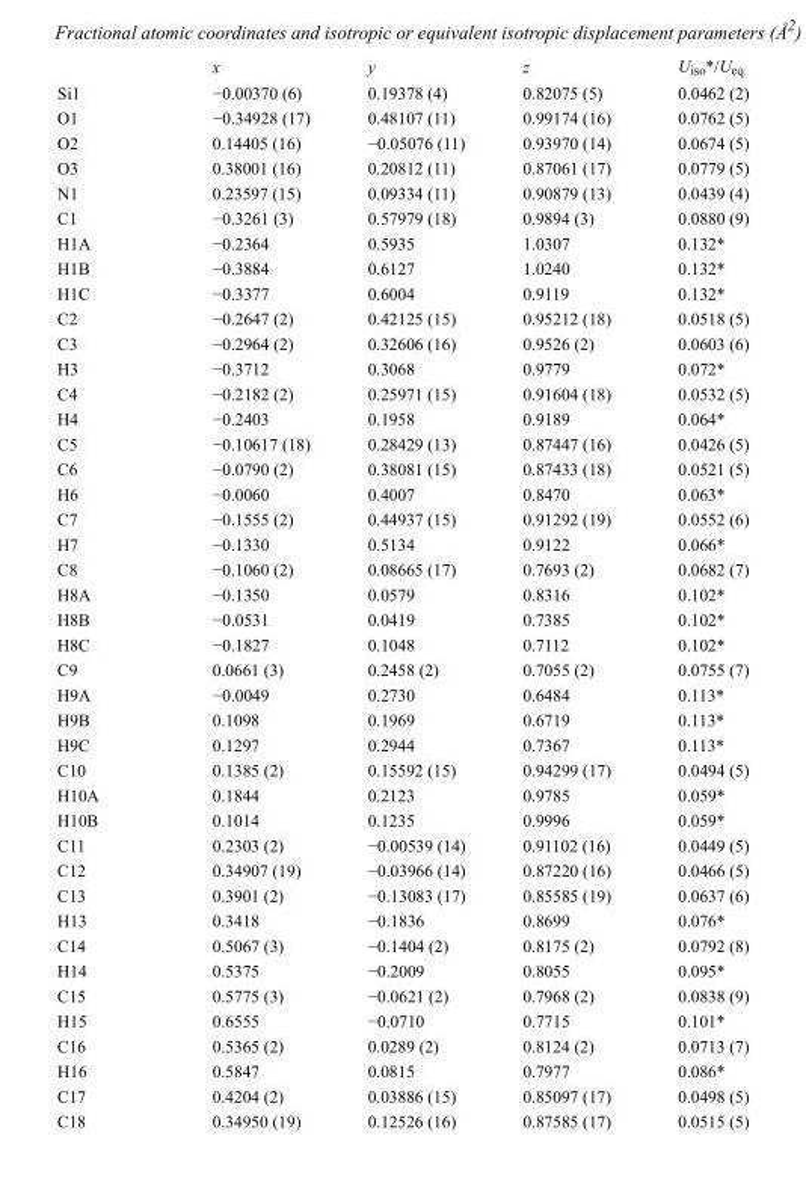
<table><thead><tr><td></td><td>x</td><td>y</td><td>z</td><td>U<sub>iso</sub>*/U<sub>eq</sub></td></tr></thead><tbody><tr><td>Si1</td><td>−0.00370 (6)</td><td>0.19378 (4)</td><td>0.82075 (5)</td><td>0.0462 (2)</td></tr><tr><td>O1</td><td>−0.34928 (17)</td><td>0.48107 (11)</td><td>0.99174 (16)</td><td>0.0762 (5)</td></tr><tr><td>O2</td><td>0.14405 (16)</td><td>−0.05076 (11)</td><td>0.93970 (14)</td><td>0.0674 (5)</td></tr><tr><td>O3</td><td>0.38001 (16)</td><td>0.20812 (11)</td><td>0.87061 (17)</td><td>0.0779 (5)</td></tr><tr><td>N1</td><td>0.23597 (15)</td><td>0.09334 (11)</td><td>0.90879 (13)</td><td>0.0439 (4)</td></tr><tr><td>C1</td><td>−0.3261 (3)</td><td>0.57979 (18)</td><td>0.9894 (3)</td><td>0.0880 (9)</td></tr><tr><td>H1A</td><td>−0.2364</td><td>0.5935</td><td>1.0307</td><td>0.132*</td></tr><tr><td>H1B</td><td>−0.3884</td><td>0.6127</td><td>1.0240</td><td>0.132*</td></tr><tr><td>H1C</td><td>−0.3377</td><td>0.6004</td><td>0.9119</td><td>0.132*</td></tr><tr><td>C2</td><td>−0.2647 (2)</td><td>0.42125 (15)</td><td>0.95212 (18)</td><td>0.0518 (5)</td></tr><tr><td>C3</td><td>−0.2964 (2)</td><td>0.32606 (16)</td><td>0.9526 (2)</td><td>0.0603 (6)</td></tr><tr><td>H3</td><td>−0.3712</td><td>0.3068</td><td>0.9779</td><td>0.072*</td></tr><tr><td>C4</td><td>−0.2182 (2)</td><td>0.25971 (15)</td><td>0.91604 (18)</td><td>0.0532 (5)</td></tr><tr><td>H4</td><td>−0.2403</td><td>0.1958</td><td>0.9189</td><td>0.064*</td></tr><tr><td>C5</td><td>−0.10617 (18)</td><td>0.28429 (13)</td><td>0.87447 (16)</td><td>0.0426 (5)</td></tr><tr><td>C6</td><td>−0.0790 (2)</td><td>0.38081 (15)</td><td>0.87433 (18)</td><td>0.0521 (5)</td></tr><tr><td>H6</td><td>−0.0060</td><td>0.4007</td><td>0.8470</td><td>0.063*</td></tr><tr><td>C7</td><td>−0.1555 (2)</td><td>0.44937 (15)</td><td>0.91292 (19)</td><td>0.0552 (6)</td></tr><tr><td>H7</td><td>−0.1330</td><td>0.5134</td><td>0.9122</td><td>0.066*</td></tr><tr><td>C8</td><td>−0.1060 (2)</td><td>0.08665 (17)</td><td>0.7693 (2)</td><td>0.0682 (7)</td></tr><tr><td>H8A</td><td>−0.1350</td><td>0.0579</td><td>0.8316</td><td>0.102*</td></tr><tr><td>H8B</td><td>−0.0531</td><td>0.0419</td><td>0.7385</td><td>0.102*</td></tr><tr><td>H8C</td><td>−0.1827</td><td>0.1048</td><td>0.7112</td><td>0.102*</td></tr><tr><td>C9</td><td>0.0661 (3)</td><td>0.2458 (2)</td><td>0.7055 (2)</td><td>0.0755 (7)</td></tr><tr><td>H9A</td><td>−0.0049</td><td>0.2730</td><td>0.6484</td><td>0.113*</td></tr><tr><td>H9B</td><td>0.1098</td><td>0.1969</td><td>0.6719</td><td>0.113*</td></tr><tr><td>H9C</td><td>0.1297</td><td>0.2944</td><td>0.7367</td><td>0.113*</td></tr><tr><td>C10</td><td>0.1385 (2)</td><td>0.15592 (15)</td><td>0.94299 (17)</td><td>0.0494 (5)</td></tr><tr><td>H10A</td><td>0.1844</td><td>0.2123</td><td>0.9785</td><td>0.059*</td></tr><tr><td>H10B</td><td>0.1014</td><td>0.1235</td><td>0.9996</td><td>0.059*</td></tr><tr><td>C11</td><td>0.2303 (2)</td><td>−0.00539 (14)</td><td>0.91102 (16)</td><td>0.0449 (5)</td></tr><tr><td>C12</td><td>0.34907 (19)</td><td>−0.03966 (14)</td><td>0.87220 (16)</td><td>0.0466 (5)</td></tr><tr><td>C13</td><td>0.3901 (2)</td><td>−0.13083 (17)</td><td>0.85585 (19)</td><td>0.0637 (6)</td></tr><tr><td>H13</td><td>0.3418</td><td>−0.1836</td><td>0.8699</td><td>0.076*</td></tr><tr><td>C14</td><td>0.5067 (3)</td><td>−0.1404 (2)</td><td>0.8175 (2)</td><td>0.0792 (8)</td></tr><tr><td>H14</td><td>0.5375</td><td>−0.2009</td><td>0.8055</td><td>0.095*</td></tr><tr><td>C15</td><td>0.5775 (3)</td><td>−0.0621 (2)</td><td>0.7968 (2)</td><td>0.0838 (9)</td></tr><tr><td>H15</td><td>0.6555</td><td>−0.0710</td><td>0.7715</td><td>0.101*</td></tr><tr><td>C16</td><td>0.5365 (2)</td><td>0.0289 (2)</td><td>0.8124 (2)</td><td>0.0713 (7)</td></tr><tr><td>H16</td><td>0.5847</td><td>0.0815</td><td>0.7977</td><td>0.086*</td></tr><tr><td>C17</td><td>0.4204 (2)</td><td>0.03886 (15)</td><td>0.85097 (17)</td><td>0.0498 (5)</td></tr><tr><td>C18</td><td>0.34950 (19)</td><td>0.12526 (16)</td><td>0.87585 (17)</td><td>0.0515 (5)</td></tr></tbody></table>